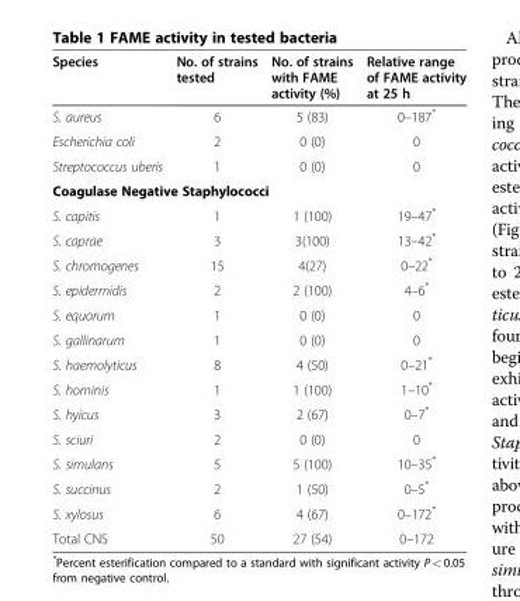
<table><thead><tr><td>Species</td><td>No. of strains tested</td><td>No. of strains with FAME activity (%)</td><td>Relative range of FAME activity at 25 h</td></tr></thead><tbody><tr><td>S. aureus</td><td>6</td><td>5 (83)</td><td>0–187*</td></tr><tr><td>Escherichia coli</td><td>2</td><td>0 (0)</td><td>0</td></tr><tr><td>Streptococcus uberis</td><td>1</td><td>0 (0)</td><td>0</td></tr><tr><td colspan="4">Coagulase Negative Staphylococci</td></tr><tr><td>S. capitis</td><td>1</td><td>1 (100)</td><td>19–47*</td></tr><tr><td>S. caprae</td><td>3</td><td>3(100)</td><td>13–42*</td></tr><tr><td>S. chromogenes</td><td>15</td><td>4(27)</td><td>0–22*</td></tr><tr><td>S. epidermidis</td><td>2</td><td>2 (100)</td><td>4–6*</td></tr><tr><td>S. equorum</td><td>1</td><td>0 (0)</td><td>0</td></tr><tr><td>S. gallinarum</td><td>1</td><td>0 (0)</td><td>0</td></tr><tr><td>S. haemolyticus</td><td>8</td><td>4 (50)</td><td>0–21*</td></tr><tr><td>S. hominis</td><td>1</td><td>1 (100)</td><td>1–10*</td></tr><tr><td>S. hyicus</td><td>3</td><td>2 (67)</td><td>0–7*</td></tr><tr><td>S. sciuri</td><td>2</td><td>0 (0)</td><td>0</td></tr><tr><td>S. simulans</td><td>5</td><td>5 (100)</td><td>10–35*</td></tr><tr><td>S. succinus</td><td>2</td><td>1 (50)</td><td>0–5*</td></tr><tr><td>S. xylosus</td><td>6</td><td>4 (67)</td><td>0–172*</td></tr><tr><td>Total CNS</td><td>50</td><td>27 (54)</td><td>0–172</td></tr></tbody></table>